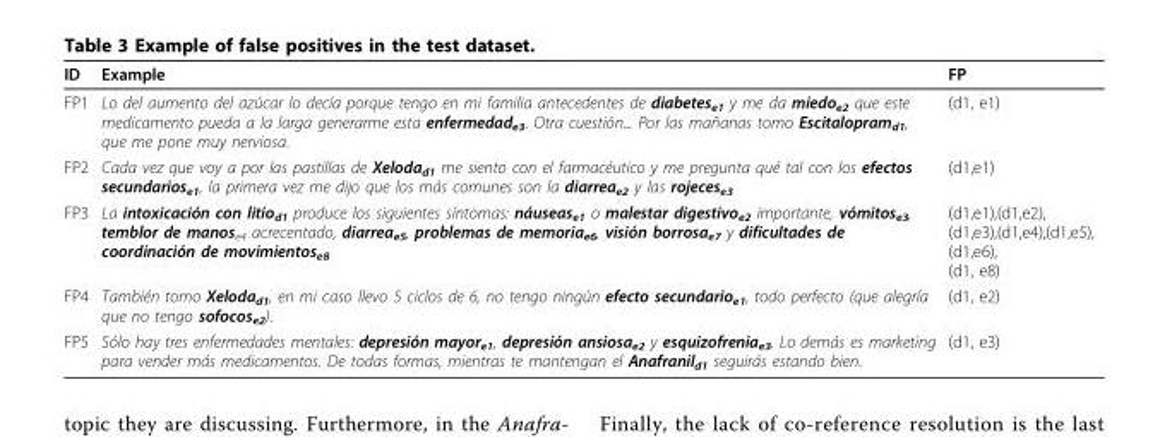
<table><thead><tr><td>ID</td><td>Example</td><td>FP</td></tr></thead><tbody><tr><td>FP1</td><td>Lo del aumento del azúcar lo decía porque tengo en mi familia antecedentes de diabetes<sub>e1</sub> y me da miedo<sub>e2</sub> que este medicamento pueda a la larga generarme esta enfermedad<sub>e3</sub>. Otra cuestión... Por las mañanas tomo Escitalopram<sub>d1</sub>, que me pone muy nerviosa.</td><td>(d1, e1)</td></tr><tr><td>FP2</td><td>Cada vez que voy a por las pastillas de Xeloda<sub>d1</sub> me siento con el farmacéutico y me pregunta qué tal con los efectos secundarios<sub>e1</sub>, la primera vez me dijo que los más comunes son la diarrea<sub>e2</sub> y las rojeces<sub>e3</sub></td><td>(d1,e1)</td></tr><tr><td>FP3</td><td>La intoxicación con litiod1 produce los siguientes síntomas: náusease1 o malestar digestivoe2 importante, vómitose3, temblor de manose4 acrecentado, diarreae5, problemas de memoriae6, visión borrosae7 y dificultades de coordinación de movimientose8</td><td>(d1,e1),(d1,e2), (d1,e3),(d1,e4),(d1,e5), (d1,e6), (d1, e8)</td></tr><tr><td>FP4</td><td>También tomo Xeloda<sub>d1</sub>, en mi caso llevo 5 ciclos de 6, no tengo ningún efecto secundario<sub>e1</sub>, todo perfecto (que alegría que no tengo sofocos<sub>e2</sub>).</td><td>(d1, e2)</td></tr><tr><td>FP5</td><td>Sólo hay tres enfermedades mentales: depresión mayor<sub>e1</sub>, depresión ansiosa<sub>e2</sub> y esquizofrenia<sub>e3</sub>. Lo demás es marketing para vender más medicamentos. De todas formas, mientras te mantengan el Anafranil<sub>d1</sub> seguirás estando bien.</td><td>(d1, e3)</td></tr></tbody></table>